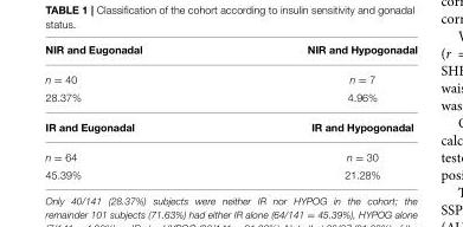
<table><thead><tr><td>NIR and Eugonadal</td><td>NIR and Hypogonadal</td></tr></thead><tbody><tr><td>n = 40</td><td>n = 7</td></tr><tr><td>28.37%</td><td>4.96%</td></tr><tr><td>IR and Eugonadal</td><td>IR and Hypogonadal</td></tr><tr><td>n = 64</td><td>n = 30</td></tr><tr><td>45.39%</td><td>21.28%</td></tr></tbody></table>